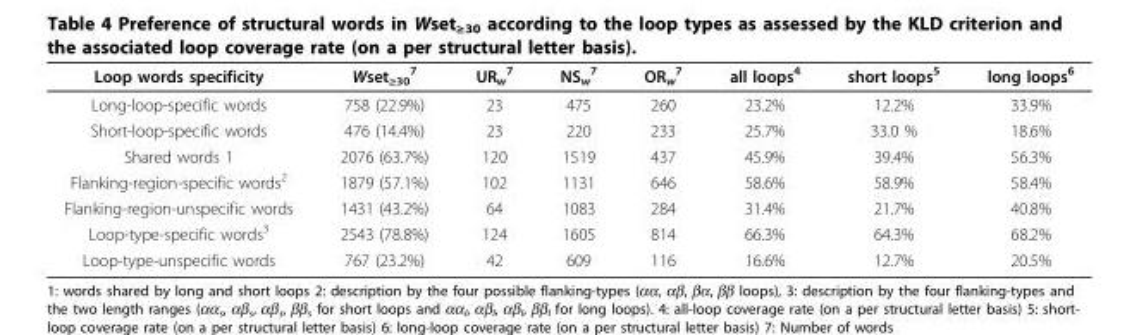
<table><thead><tr><td>Loop words specificity</td><td>Wset<sub>≥30</sub> <sup>7</sup></td><td>UR<sub>w</sub> <sup>7</sup></td><td>NS<sub>w</sub> <sup>7</sup></td><td>OR<sub>w</sub> <sup>7</sup></td><td>all loops<sup>4</sup></td><td>short loops<sup>5</sup></td><td>long loops<sup>6</sup></td></tr></thead><tbody><tr><td>Long-loop-specific words</td><td>758 (22.9%)</td><td>23</td><td>475</td><td>260</td><td>23.2%</td><td>12.2%</td><td>33.9%</td></tr><tr><td>Short-loop-specific words</td><td>476 (14.4%)</td><td>23</td><td>220</td><td>233</td><td>25.7%</td><td>33.0 %</td><td>18.6%</td></tr><tr><td>Shared words 1</td><td>2076 (63.7%)</td><td>120</td><td>1519</td><td>437</td><td>45.9%</td><td>39.4%</td><td>56.3%</td></tr><tr><td>Flanking-region-specific words<sup>2</sup></td><td>1879 (57.1%)</td><td>102</td><td>1131</td><td>646</td><td>58.6%</td><td>58.9%</td><td>58.4%</td></tr><tr><td>Flanking-region-unspecific words</td><td>1431 (43.2%)</td><td>64</td><td>1083</td><td>284</td><td>31.4%</td><td>21.7%</td><td>40.8%</td></tr><tr><td>Loop-type-specific words<sup>3</sup></td><td>2543 (78.8%)</td><td>124</td><td>1605</td><td>814</td><td>66.3%</td><td>64.3%</td><td>68.2%</td></tr><tr><td>Loop-type-unspecific words</td><td>767 (23.2%)</td><td>42</td><td>609</td><td>116</td><td>16.6%</td><td>12.7%</td><td>20.5%</td></tr></tbody></table>